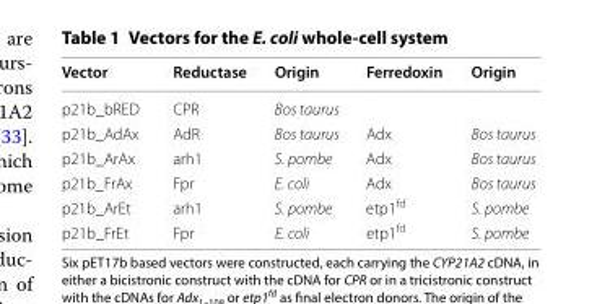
<table><thead><tr><td>Vector</td><td>Reductase</td><td>Origin</td><td>Ferredoxin</td><td>Origin</td></tr></thead><tbody><tr><td>p21b_bRED</td><td>CPR</td><td>Bos taurus</td><td></td><td></td></tr><tr><td>p21b_AdAx</td><td>AdR</td><td>Bos taurus</td><td>Adx</td><td>Bos taurus</td></tr><tr><td>p21b_ArAx</td><td>arh1</td><td>S. pombe</td><td>Adx</td><td>Bos taurus</td></tr><tr><td>p21b_FrAx</td><td>Fpr</td><td>E. coli</td><td>Adx</td><td>Bos taurus</td></tr><tr><td>p21b_ArEt</td><td>arh1</td><td>S. pombe</td><td>etp1<sup>fd</sup></td><td>S. pombe</td></tr><tr><td>p21b_FrEt</td><td>Fpr</td><td>E. coli</td><td>etp1<sup>fd</sup></td><td>S. pombe</td></tr></tbody></table>